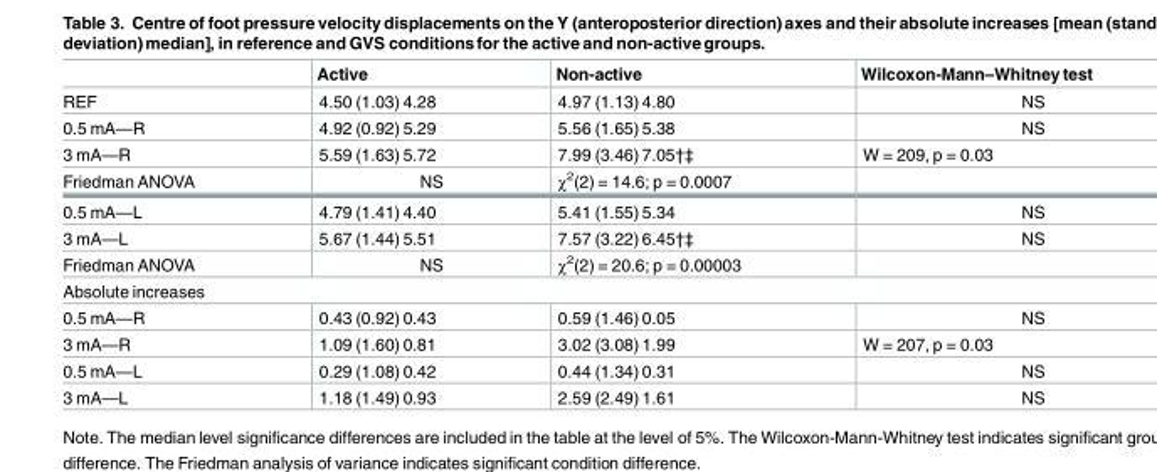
<table><thead><tr><td></td><td>Active</td><td>Non-active</td><td>Wilcoxon-Mann–Whitney test</td></tr></thead><tbody><tr><td>REF</td><td>4.50 (1.03) 4.28</td><td>4.97 (1.13) 4.80</td><td>NS</td></tr><tr><td>0.5 mA—R</td><td>4.92 (0.92) 5.29</td><td>5.56 (1.65) 5.38</td><td>NS</td></tr><tr><td>3 mA—R</td><td>5.59 (1.63) 5.72</td><td>7.99 (3.46) 7.05†‡</td><td>W = 209, p = 0.03</td></tr><tr><td>Friedman ANOVA</td><td>NS</td><td>χ<sup>2</sup>(2) = 14.6; p = 0.0007</td><td></td></tr><tr><td>0.5 mA—L</td><td>4.79 (1.41) 4.40</td><td>5.41 (1.55) 5.34</td><td>NS</td></tr><tr><td>3 mA—L</td><td>5.67 (1.44) 5.51</td><td>7.57 (3.22) 6.45†‡</td><td>NS</td></tr><tr><td>Friedman ANOVA</td><td>NS</td><td>χ<sup>2</sup>(2) = 20.6; p = 0.00003</td><td></td></tr><tr><td colspan="4">Absolute increases</td></tr><tr><td>0.5 mA—R</td><td>0.43 (0.92) 0.43</td><td>0.59 (1.46) 0.05</td><td>NS</td></tr><tr><td>3 mA—R</td><td>1.09 (1.60) 0.81</td><td>3.02 (3.08) 1.99</td><td>W = 207, p = 0.03</td></tr><tr><td>0.5 mA—L</td><td>0.29 (1.08) 0.42</td><td>0.44 (1.34) 0.31</td><td>NS</td></tr><tr><td>3 mA—L</td><td>1.18 (1.49) 0.93</td><td>2.59 (2.49) 1.61</td><td>NS</td></tr></tbody></table>